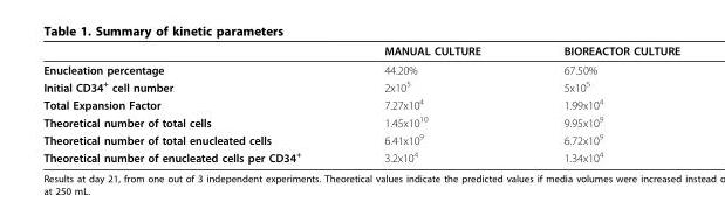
<table><thead><tr><td></td><td>MANUAL CULTURE</td><td>BIOREACTOR CULTURE</td></tr></thead><tbody><tr><td>Enucleation percentage</td><td>44.20%</td><td>67.50%</td></tr><tr><td>Initial CD34<sup>+</sup> cell number</td><td>2x10<sup>5</sup></td><td>5x10<sup>5</sup></td></tr><tr><td>Total Expansion Factor</td><td>7.27x10<sup>4</sup></td><td>1.99x10<sup>4</sup></td></tr><tr><td>Theoretical number of total cells</td><td>1.45x10<sup>10</sup></td><td>9.95x10<sup>9</sup></td></tr><tr><td>Theoretical number of total enucleated cells</td><td>6.41x10<sup>9</sup></td><td>6.72x10<sup>9</sup></td></tr><tr><td>Theoretical number of enucleated cells per CD34<sup>+</sup></td><td>3.2x10<sup>4</sup></td><td>1.34x10<sup>4</sup></td></tr></tbody></table>